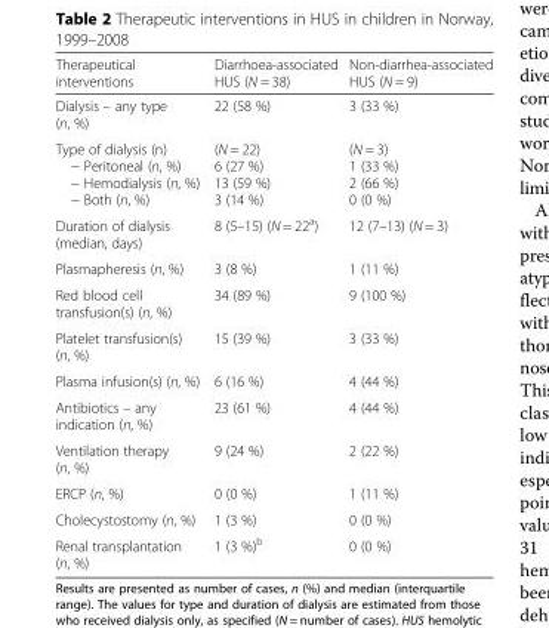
<table><thead><tr><td>Therapeutical interventions</td><td>Diarrhoea-associated HUS (N = 38)</td><td>Non-diarrhea-associated HUS (N = 9)</td></tr></thead><tbody><tr><td>Dialysis – any type (n, %)</td><td>22 (58 %)</td><td>3 (33 %)</td></tr><tr><td>Type of dialysis (n) − Peritoneal (n, %) − Hemodialysis (n, %) − Both (n, %)</td><td>(N = 22) 6 (27 %) 13 (59 %) 3 (14 %)</td><td>(N = 3) 1 (33 %) 2 (66 %) 0 (0 %)</td></tr><tr><td>Duration of dialysis (median, days)</td><td>8 (5–15) (N = 22<sup>a</sup>)</td><td>12 (7–13) (N = 3)</td></tr><tr><td>Plasmapheresis (n, %)</td><td>3 (8 %)</td><td>1 (11 %)</td></tr><tr><td>Red blood cell transfusion(s) (n, %)</td><td>34 (89 %)</td><td>9 (100 %)</td></tr><tr><td>Platelet transfusion(s) (n, %)</td><td>15 (39 %)</td><td>3 (33 %)</td></tr><tr><td>Plasma infusion(s) (n, %)</td><td>6 (16 %)</td><td>4 (44 %)</td></tr><tr><td>Antibiotics – any indication (n, %)</td><td>23 (61 %)</td><td>4 (44 %)</td></tr><tr><td>Ventilation therapy (n, %)</td><td>9 (24 %)</td><td>2 (22 %)</td></tr><tr><td>ERCP (n, %)</td><td>0 (0 %)</td><td>1 (11 %)</td></tr><tr><td>Cholecystostomy (n, %)</td><td>1 (3 %)</td><td>0 (0 %)</td></tr><tr><td>Renal transplantation (n, %)</td><td>1 (3 %)<sup>b</sup></td><td>0 (0 %)</td></tr></tbody></table>